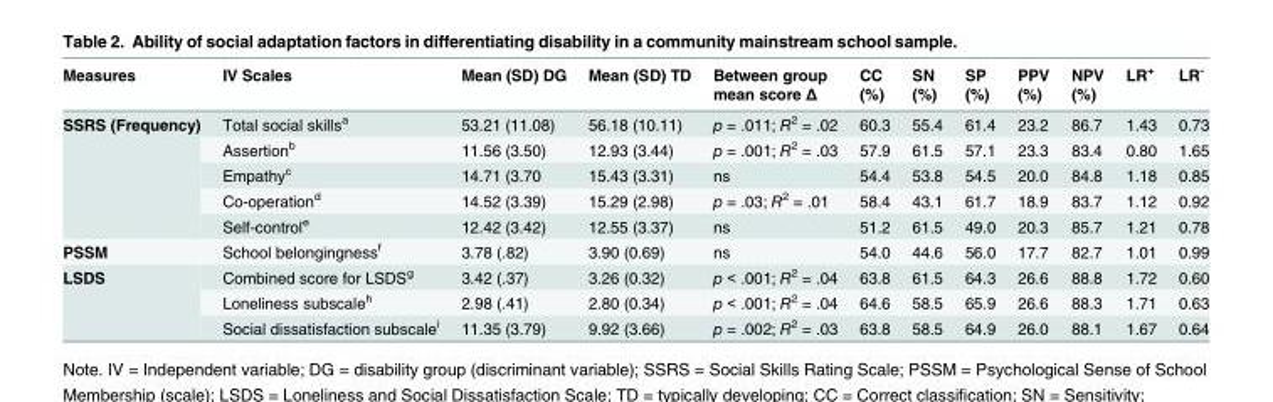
<table><thead><tr><td rowspan="2">Measures</td><td rowspan="2">IV Scales</td><td rowspan="2">Mean (SD) DG</td><td rowspan="2">Mean (SD) TD</td><td rowspan="2">Between group mean score Δ</td><td rowspan="2">CC (%)</td><td rowspan="2">SN (%)</td><td rowspan="2">SP (%)</td><td rowspan="2">PPV (%)</td><td rowspan="2">NPV (%)</td><td rowspan="2">LR<sup>+</sup></td><td rowspan="2">LR<sup>-</sup></td></tr><tr></tr></thead><tbody><tr><td rowspan="5">SSRS (Frequency)</td><td>Total social skills<sup>a</sup></td><td>53.21 (11.08)</td><td>56.18 (10.11)</td><td>p = .011; R<sup>2</sup> = .02</td><td>60.3</td><td>55.4</td><td>61.4</td><td>23.2</td><td>86.7</td><td>1.43</td><td>0.73</td></tr><tr><td>Assertion<sup>b</sup></td><td>11.56 (3.50)</td><td>12.93 (3.44)</td><td>p = .001; R<sup>2</sup> = .03</td><td>57.9</td><td>61.5</td><td>57.1</td><td>23.3</td><td>83.4</td><td>0.80</td><td>1.65</td></tr><tr><td>Empathy<sup>c</sup></td><td>14.71 (3.70</td><td>15.43 (3.31)</td><td>ns</td><td>54.4</td><td>53.8</td><td>54.5</td><td>20.0</td><td>84.8</td><td>1.18</td><td>0.85</td></tr><tr><td>Co-operation<sup>d</sup></td><td>14.52 (3.39)</td><td>15.29 (2.98)</td><td>p = .03; R<sup>2</sup> = .01</td><td>58.4</td><td>43.1</td><td>61.7</td><td>18.9</td><td>83.7</td><td>1.12</td><td>0.92</td></tr><tr><td>Self-control<sup>e</sup></td><td>12.42 (3.42)</td><td>12.55 (3.37)</td><td>ns</td><td>51.2</td><td>61.5</td><td>49.0</td><td>20.3</td><td>85.7</td><td>1.21</td><td>0.78</td></tr><tr><td>PSSM</td><td>School belongingness<sup>f</sup></td><td>3.78 (.82)</td><td>3.90 (0.69)</td><td>ns</td><td>54.0</td><td>44.6</td><td>56.0</td><td>17.7</td><td>82.7</td><td>1.01</td><td>0.99</td></tr><tr><td rowspan="3">LSDS</td><td>Combined score for LSDS<sup>g</sup></td><td>3.42 (.37)</td><td>3.26 (0.32)</td><td>p &lt; .001; R<sup>2</sup> = .04</td><td>63.8</td><td>61.5</td><td>64.3</td><td>26.6</td><td>88.8</td><td>1.72</td><td>0.60</td></tr><tr><td>Loneliness subscale<sup>h</sup></td><td>2.98 (.41)</td><td>2.80 (0.34)</td><td>p &lt; .001; R<sup>2</sup> = .04</td><td>64.6</td><td>58.5</td><td>65.9</td><td>26.6</td><td>88.3</td><td>1.71</td><td>0.63</td></tr><tr><td>Social dissatisfaction subscale<sup>i</sup></td><td>11.35 (3.79)</td><td>9.92 (3.66)</td><td>p = .002; R<sup>2</sup> = .03</td><td>63.8</td><td>58.5</td><td>64.9</td><td>26.0</td><td>88.1</td><td>1.67</td><td>0.64</td></tr></tbody></table>